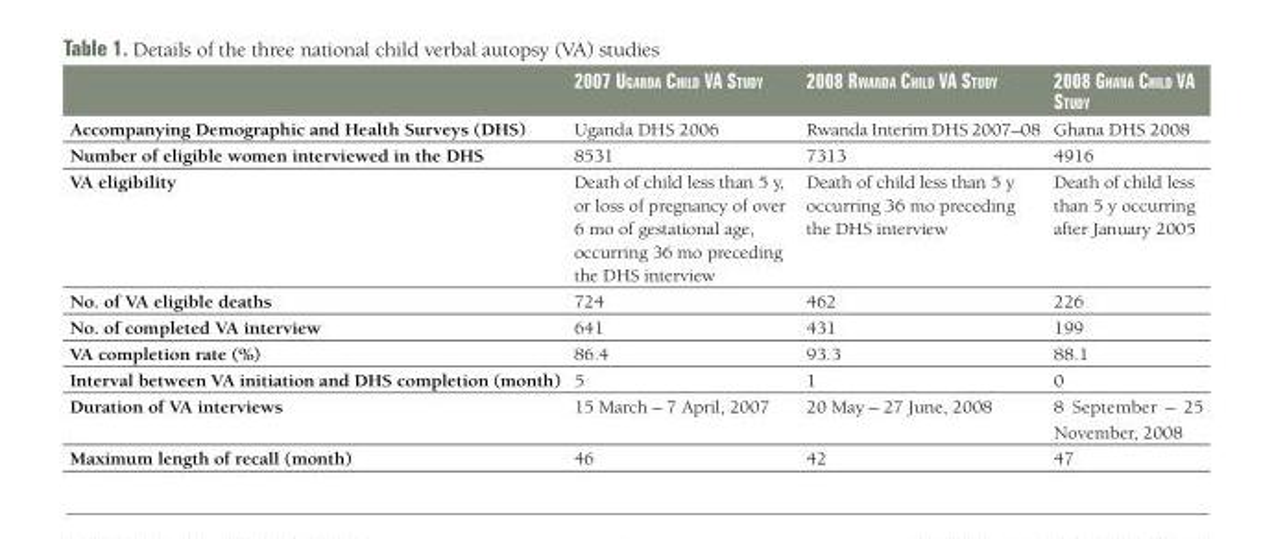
<table><thead><tr><td></td><td>2007 Uganda Child Va StUdy</td><td>2008 Rwanda Child Va StUdy</td><td>2008 ghana Child Va StUdy</td></tr></thead><tbody><tr><td>Accompanying Demographic and Health Surveys (DHS)</td><td>Uganda DHS 2006</td><td>Rwanda Interim DHS 2007–08</td><td>Ghana DHS 2008</td></tr><tr><td>Number of eligible women interviewed in the DHS</td><td>8531</td><td>7313</td><td>4916</td></tr><tr><td>VA eligibility</td><td>Death of child less than 5 y, or loss of pregnancy of over 6 mo of gestational age, occurring 36 mo preceding the DHS interview</td><td>Death of child less than 5 y occurring 36 mo preceding the DHS interview</td><td>Death of child less than 5 y occurring after January 2005</td></tr><tr><td>No. of VA eligible deaths</td><td>724</td><td>462</td><td>226</td></tr><tr><td>No. of completed VA interview</td><td>641</td><td>431</td><td>199</td></tr><tr><td>VA completion rate (%)</td><td>86.4</td><td>93.3</td><td>88.1</td></tr><tr><td>Interval between VA initiation and DHS completion (month)</td><td>5</td><td>1</td><td>0</td></tr><tr><td>Duration of VA interviews</td><td>15 March – 7 April, 2007</td><td>20 May – 27 June, 2008</td><td>8 September – 25 November, 2008</td></tr><tr><td>Maximum length of recall (month)</td><td>46</td><td>42</td><td>47</td></tr></tbody></table>